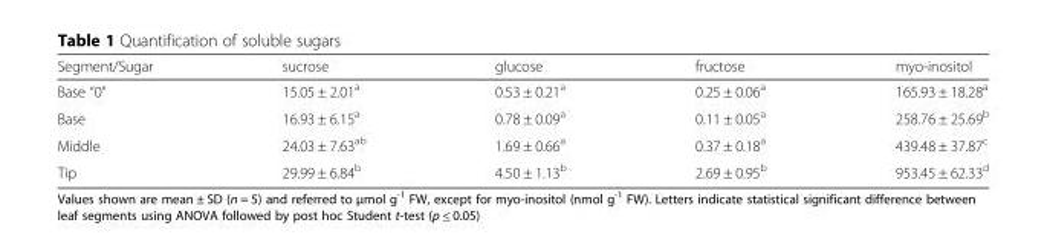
<table><thead><tr><td>Segment/Sugar</td><td>sucrose</td><td>glucose</td><td>fructose</td><td>myo-inositol</td></tr></thead><tbody><tr><td>Base “0”</td><td>15.05 ± 2.01<sup>a</sup></td><td>0.53 ± 0.21<sup>a</sup></td><td>0.25 ± 0.06<sup>a</sup></td><td>165.93 ± 18.28<sup>a</sup></td></tr><tr><td>Base</td><td>16.93 ± 6.15<sup>a</sup></td><td>0.78 ± 0.09<sup>a</sup></td><td>0.11 ± 0.05<sup>a</sup></td><td>258.76 ± 25.69<sup>b</sup></td></tr><tr><td>Middle</td><td>24.03 ± 7.63<sup>ab</sup></td><td>1.69 ± 0.66<sup>a</sup></td><td>0.37 ± 0.18<sup>a</sup></td><td>439.48 ± 37.87<sup>c</sup></td></tr><tr><td>Tip</td><td>29.99 ± 6.84<sup>b</sup></td><td>4.50 ± 1.13<sup>b</sup></td><td>2.69 ± 0.95<sup>b</sup></td><td>953.45 ± 62.33<sup>d</sup></td></tr></tbody></table>